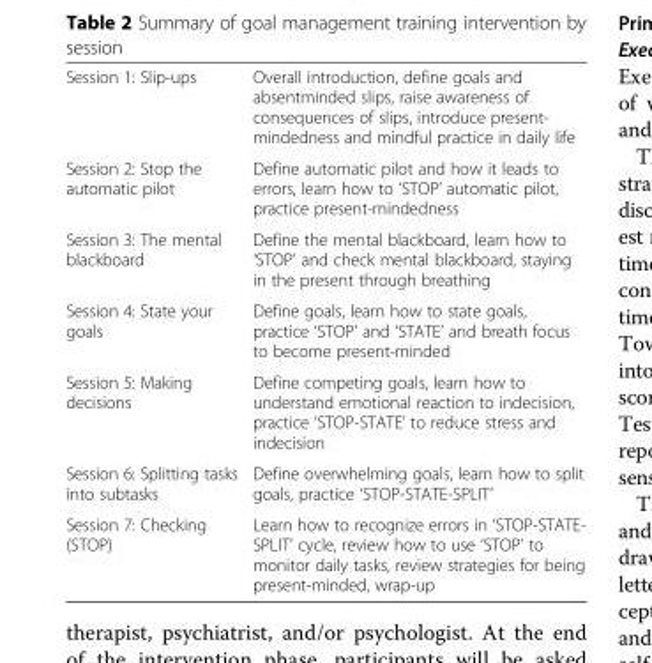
<table><tbody><tr><td>Session 1: Slip-ups</td><td>Overall introduction, define goals and absentminded slips, raise awareness of consequences of slips, introduce present- mindedness and mindful practice in daily life</td></tr><tr><td>Session 2: Stop the automatic pilot</td><td>Define automatic pilot and how it leads to errors, learn how to ‘STOP’ automatic pilot, practice present-mindedness</td></tr><tr><td>Session 3: The mental blackboard</td><td>Define the mental blackboard, learn how to ‘STOP’ and check mental blackboard, staying in the present through breathing</td></tr><tr><td>Session 4: State your goals</td><td>Define goals, learn how to state goals, practice ‘STOP’ and ‘STATE’ and breath focus to become present-minded</td></tr><tr><td>Session 5: Making decisions</td><td>Define competing goals, learn how to understand emotional reaction to indecision, practice ‘STOP-STATE’ to reduce stress and indecision</td></tr><tr><td>Session 6: Splitting tasks into subtasks</td><td>Define overwhelming goals, learn how to split goals, practice ‘STOP-STATE-SPLIT’</td></tr><tr><td>Session 7: Checking (STOP)</td><td>Learn how to recognize errors in ‘STOP-STATE- SPLIT’ cycle, review how to use ‘STOP’ to monitor daily tasks, review strategies for being present-minded, wrap-up</td></tr></tbody></table>